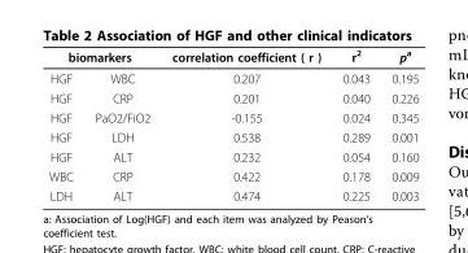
<table><thead><tr><td colspan="2">biomarkers</td><td rowspan="2">correlation coefficient ( r ) 0.207</td><td rowspan="2">r<sup>2</sup> 0.043</td><td rowspan="2">p<sup>a</sup> 0.195</td></tr><tr><td>HGF</td><td>WBC</td></tr></thead><tbody><tr><td>HGF</td><td>CRP</td><td>0.201</td><td>0.040</td><td>0.226</td></tr><tr><td>HGF</td><td>PaO2/FiO2</td><td>-0.155</td><td>0.024</td><td>0.345</td></tr><tr><td>HGF</td><td>LDH</td><td>0.538</td><td>0.289</td><td>0.001</td></tr><tr><td>HGF</td><td>ALT</td><td>0.232</td><td>0.054</td><td>0.160</td></tr><tr><td>WBC</td><td>CRP</td><td>0.422</td><td>0.178</td><td>0.009</td></tr><tr><td>LDH</td><td>ALT</td><td>0.474</td><td>0.225</td><td>0.003</td></tr></tbody></table>